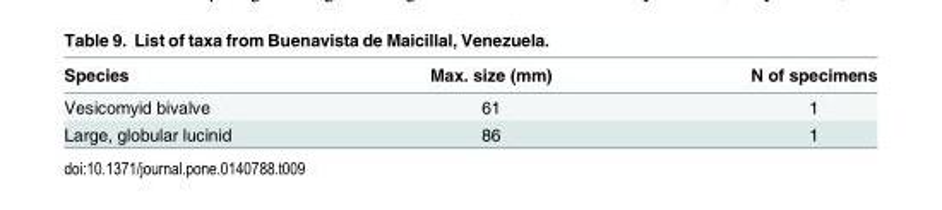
<table><thead><tr><td>Species</td><td>Max. size (mm)</td><td>N of specimens</td></tr></thead><tbody><tr><td>Vesicomyid bivalve</td><td>61</td><td>1</td></tr><tr><td>Large, globular lucinid</td><td>86</td><td>1</td></tr></tbody></table>